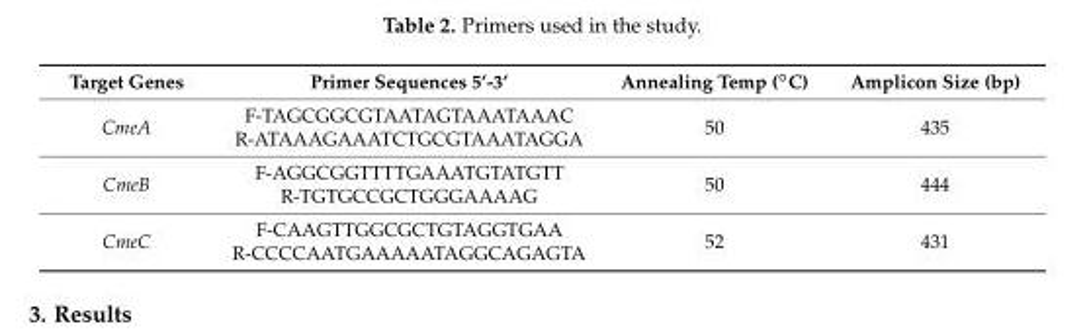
<table><thead><tr><td>Target Genes</td><td>Primer Sequences 5’-3’</td><td>Annealing Temp (◦C)</td><td>Amplicon Size (bp)</td></tr></thead><tbody><tr><td>CmeA</td><td>F-TAGCGGCGTAATAGTAAATAAAC R-ATAAAGAAATCTGCGTAAATAGGA</td><td>50</td><td>435</td></tr><tr><td>CmeB</td><td>F-AGGCGGTTTTGAAATGTATGTT R-TGTGCCGCTGGGAAAAG</td><td>50</td><td>444</td></tr><tr><td>CmeC</td><td>F-CAAGTTGGCGCTGTAGGTGAA R-CCCCAATGAAAAATAGGCAGAGTA</td><td>52</td><td>431</td></tr></tbody></table>